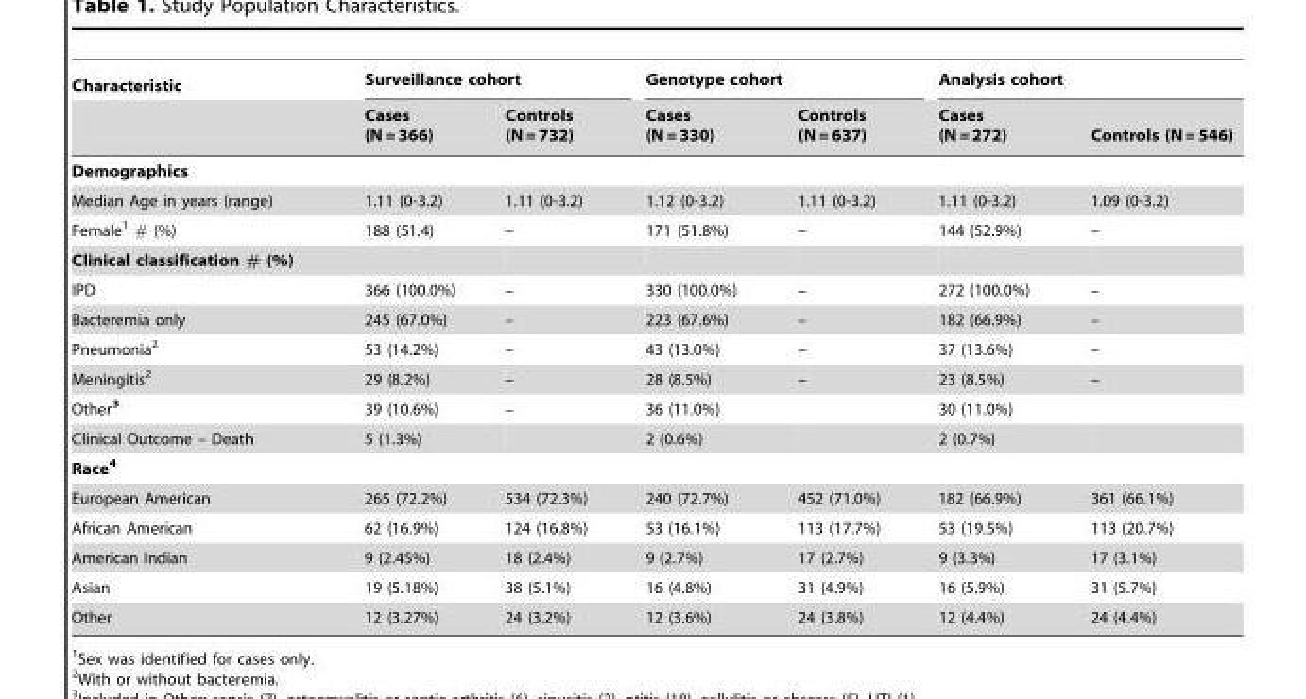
<table><thead><tr><td rowspan="2">Characteristic</td><td colspan="2">Surveillance cohort</td><td colspan="2">Genotype cohort</td><td colspan="2">Analysis cohort</td></tr><tr><td>Cases (N = 366)</td><td>Controls (N = 732)</td><td>Cases (N = 330)</td><td>Controls (N = 637)</td><td>Cases (N = 272)</td><td>Controls (N = 546)</td></tr></thead><tbody><tr><td colspan="7">Demographics</td></tr><tr><td>Median Age in years (range)</td><td>1.11 (0-3.2)</td><td>1.11 (0-3.2)</td><td>1.12 (0-3.2)</td><td>1.11 (0-3.2)</td><td>1.11 (0-3.2)</td><td>1.09 (0-3.2)</td></tr><tr><td>Female<sup>1</sup> # (%)</td><td>188 (51.4)</td><td>–</td><td>171 (51.8%)</td><td>–</td><td>144 (52.9%)</td><td>–</td></tr><tr><td colspan="7">Clinical classification # (%)</td></tr><tr><td>IPD</td><td>366 (100.0%)</td><td>–</td><td>330 (100.0%)</td><td>–</td><td>272 (100.0%)</td><td>–</td></tr><tr><td>Bacteremia only</td><td>245 (67.0%)</td><td>–</td><td>223 (67.6%)</td><td>–</td><td>182 (66.9%)</td><td>–</td></tr><tr><td>Pneumonia<sup>2</sup></td><td>53 (14.2%)</td><td>–</td><td>43 (13.0%)</td><td>–</td><td>37 (13.6%)</td><td>–</td></tr><tr><td>Meningitis<sup>2</sup></td><td>29 (8.2%)</td><td>–</td><td>28 (8.5%)</td><td>–</td><td>23 (8.5%)</td><td>–</td></tr><tr><td>Other<sup>3</sup></td><td>39 (10.6%)</td><td>–</td><td>36 (11.0%)</td><td></td><td>30 (11.0%)</td><td></td></tr><tr><td>Clinical Outcome – Death</td><td>5 (1.3%)</td><td></td><td>2 (0.6%)</td><td></td><td>2 (0.7%)</td><td></td></tr><tr><td colspan="7">Race4</td></tr><tr><td>European American</td><td>265 (72.2%)</td><td>534 (72.3%)</td><td>240 (72.7%)</td><td>452 (71.0%)</td><td>182 (66.9%)</td><td>361 (66.1%)</td></tr><tr><td>African American</td><td>62 (16.9%)</td><td>124 (16.8%)</td><td>53 (16.1%)</td><td>113 (17.7%)</td><td>53 (19.5%)</td><td>113 (20.7%)</td></tr><tr><td>American Indian</td><td>9 (2.45%)</td><td>18 (2.4%)</td><td>9 (2.7%)</td><td>17 (2.7%)</td><td>9 (3.3%)</td><td>17 (3.1%)</td></tr><tr><td>Asian</td><td>19 (5.18%)</td><td>38 (5.1%)</td><td>16 (4.8%)</td><td>31 (4.9%)</td><td>16 (5.9%)</td><td>31 (5.7%)</td></tr><tr><td>Other</td><td>12 (3.27%)</td><td>24 (3.2%)</td><td>12 (3.6%)</td><td>24 (3.8%)</td><td>12 (4.4%)</td><td>24 (4.4%)</td></tr></tbody></table>